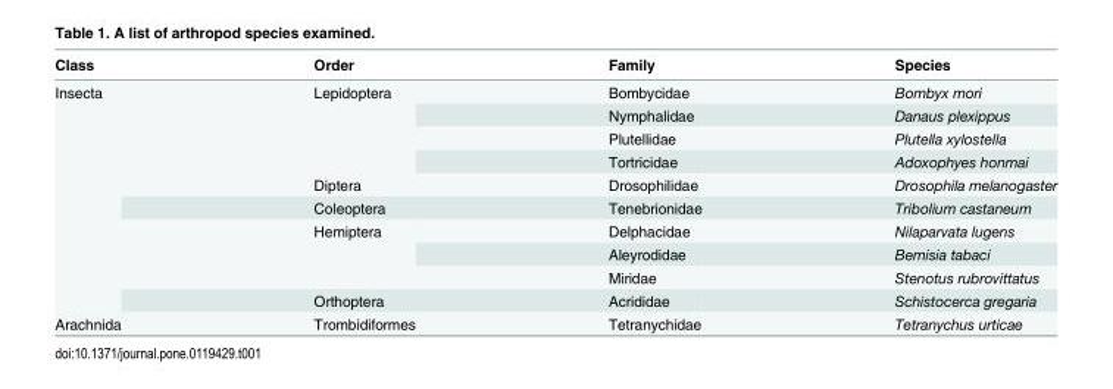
<table><thead><tr><td>Class</td><td>Order</td><td>Family</td><td>Species</td></tr></thead><tbody><tr><td rowspan="10">Insecta</td><td rowspan="4">Lepidoptera</td><td>Bombycidae</td><td>Bombyx mori</td></tr><tr><td>Nymphalidae</td><td>Danaus plexippus</td></tr><tr><td>Plutellidae</td><td>Plutella xylostella</td></tr><tr><td>Tortricidae</td><td>Adoxophyes honmai</td></tr><tr><td>Diptera</td><td>Drosophilidae</td><td>Drosophila melanogaster</td></tr><tr><td>Coleoptera</td><td>Tenebrionidae</td><td>Tribolium castaneum</td></tr><tr><td rowspan="3">Hemiptera</td><td>Delphacidae</td><td>Nilaparvata lugens</td></tr><tr><td>Aleyrodidae</td><td>Bemisia tabaci</td></tr><tr><td>Miridae</td><td>Stenotus rubrovittatus</td></tr><tr><td>Orthoptera</td><td>Acrididae</td><td>Schistocerca gregaria</td></tr><tr><td>Arachnida</td><td>Trombidiformes</td><td>Tetranychidae</td><td>Tetranychus urticae</td></tr></tbody></table>